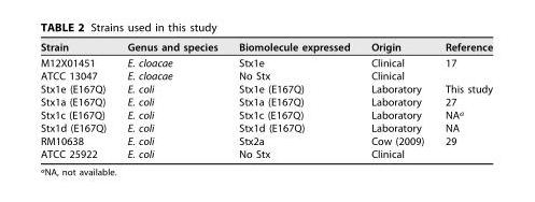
<table><thead><tr><td>Strain</td><td>Genus and species</td><td>Biomolecule expressed</td><td>Origin</td><td>Reference</td></tr></thead><tbody><tr><td>M12X01451</td><td>E. cloacae</td><td>Stx1e</td><td>Clinical</td><td>17</td></tr><tr><td>ATCC 13047</td><td>E. cloacae</td><td>No Stx</td><td>Clinical</td><td></td></tr><tr><td>Stx1e (E167Q)</td><td>E. coli</td><td>Stx1e (E167Q)</td><td>Laboratory</td><td>This study</td></tr><tr><td>Stx1a (E167Q)</td><td>E. coli</td><td>Stx1a (E167Q)</td><td>Laboratory</td><td>27</td></tr><tr><td>Stx1c (E167Q)</td><td>E. coli</td><td>Stx1c (E167Q)</td><td>Laboratory</td><td>NA<sup>a</sup></td></tr><tr><td>Stx1d (E167Q)</td><td>E. coli</td><td>Stx1d (E167Q)</td><td>Laboratory</td><td>NA</td></tr><tr><td>RM10638</td><td>E. coli</td><td>Stx2a</td><td>Cow (2009)</td><td>29</td></tr><tr><td>ATCC 25922</td><td>E. coli</td><td>No Stx</td><td>Clinical</td><td></td></tr></tbody></table>